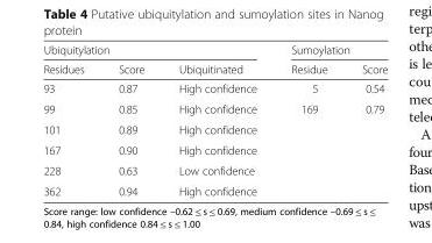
<table><thead><tr><td colspan="3">Ubiquitylation</td><td colspan="2">Sumoylation</td></tr><tr><td>Residues</td><td>Score</td><td>Ubiquitinated</td><td>Residue</td><td>Score</td></tr></thead><tbody><tr><td>93</td><td>0.87</td><td>High confidence</td><td>5</td><td>0.54</td></tr><tr><td>99</td><td>0.85</td><td>High confidence</td><td>169</td><td>0.79</td></tr><tr><td>101</td><td>0.89</td><td>High confidence</td><td></td><td></td></tr><tr><td>167</td><td>0.90</td><td>High confidence</td><td></td><td></td></tr><tr><td>228</td><td>0.63</td><td>Low confidence</td><td></td><td></td></tr><tr><td>362</td><td>0.94</td><td>High confidence</td><td></td><td></td></tr></tbody></table>